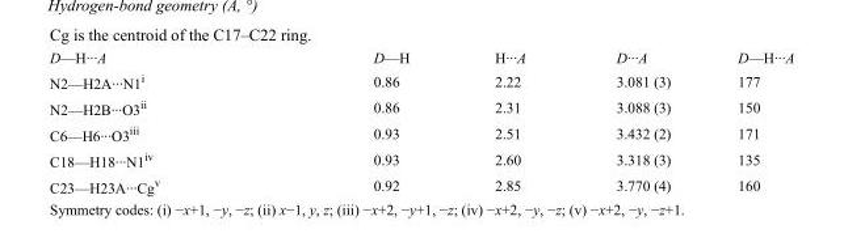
<table><tbody><tr><td>D—H···A</td><td>D—H</td><td>H···A</td><td>D···A</td><td>D—H···A</td></tr><tr><td>N2—H2A···N1<sup>i</sup></td><td>0.86</td><td>2.22</td><td>3.081 (3)</td><td>177</td></tr><tr><td>N2—H2B···O3<sup>ii</sup></td><td>0.86</td><td>2.31</td><td>3.088 (3)</td><td>150</td></tr><tr><td>C6—H6···O3<sup>iii</sup></td><td>0.93</td><td>2.51</td><td>3.432 (2)</td><td>171</td></tr><tr><td>C18—H18···N1<sup>iv</sup></td><td>0.93</td><td>2.60</td><td>3.318 (3)</td><td>135</td></tr><tr><td>C23—H23A···Cg<sup>v</sup></td><td>0.92</td><td>2.85</td><td>3.770 (4)</td><td>160</td></tr></tbody></table>